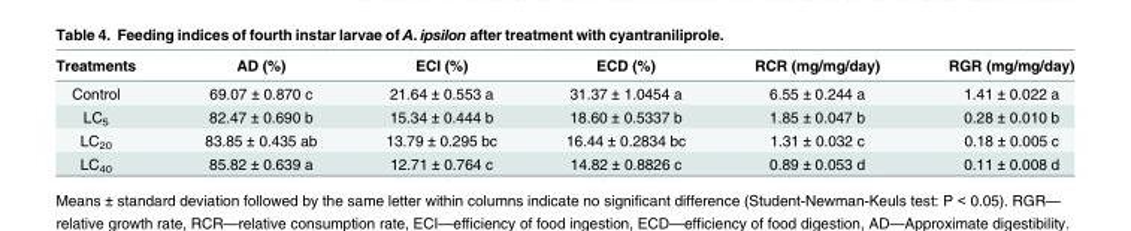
<table><thead><tr><td>Treatments</td><td>AD (%)</td><td>ECI (%)</td><td>ECD (%)</td><td>RCR (mg/mg/day)</td><td>RGR (mg/mg/day)</td></tr></thead><tbody><tr><td>Control</td><td>69.07 ± 0.870 c</td><td>21.64 ± 0.553 a</td><td>31.37 ± 1.0454 a</td><td>6.55 ± 0.244 a</td><td>1.41 ± 0.022 a</td></tr><tr><td>LC<sub>5</sub></td><td>82.47 ± 0.690 b</td><td>15.34 ± 0.444 b</td><td>18.60 ± 0.5337 b</td><td>1.85 ± 0.047 b</td><td>0.28 ± 0.010 b</td></tr><tr><td>LC<sub>20</sub></td><td>83.85 ± 0.435 ab</td><td>13.79 ± 0.295 bc</td><td>16.44 ± 0.2834 bc</td><td>1.31 ± 0.032 c</td><td>0.18 ± 0.005 c</td></tr><tr><td>LC<sub>40</sub></td><td>85.82 ± 0.639 a</td><td>12.71 ± 0.764 c</td><td>14.82 ± 0.8826 c</td><td>0.89 ± 0.053 d</td><td>0.11 ± 0.008 d</td></tr></tbody></table>